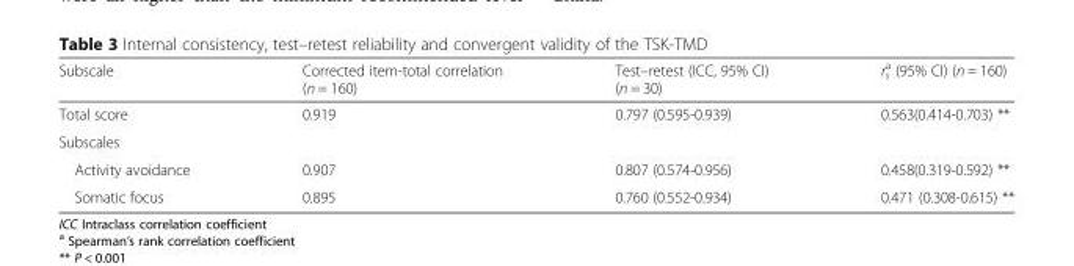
<table><thead><tr><td>Subscale</td><td>Corrected item-total correlation (n = 160)</td><td>Test–retest (ICC, 95% CI) (n = 30)</td><td>r<sub>s</sub> <sup>a</sup> (95% CI) (n = 160)</td></tr></thead><tbody><tr><td>Total score</td><td>0.919</td><td>0.797 (0.595-0.939)</td><td>0.563(0.414-0.703) **</td></tr><tr><td colspan="4">Subscales</td></tr><tr><td>Activity avoidance</td><td>0.907</td><td>0.807 (0.574-0.956)</td><td>0.458(0.319-0.592) **</td></tr><tr><td>Somatic focus</td><td>0.895</td><td>0.760 (0.552-0.934)</td><td>0.471 (0.308-0.615) **</td></tr></tbody></table>